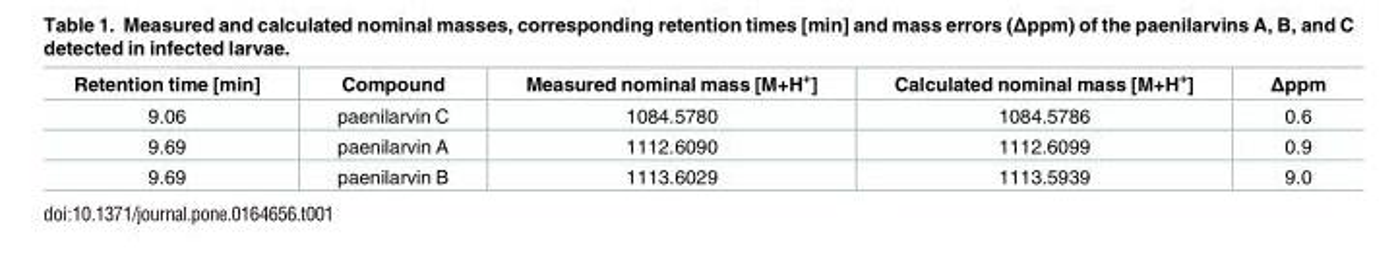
<table><thead><tr><td>Retention time [min]</td><td>Compound</td><td>Measured nominal mass [M+H<sup>+</sup>]</td><td>Calculated nominal mass [M+H<sup>+</sup>]</td><td>Δppm</td></tr></thead><tbody><tr><td>9.06</td><td>paenilarvin C</td><td>1084.5780</td><td>1084.5786</td><td>0.6</td></tr><tr><td>9.69</td><td>paenilarvin A</td><td>1112.6090</td><td>1112.6099</td><td>0.9</td></tr><tr><td>9.69</td><td>paenilarvin B</td><td>1113.6029</td><td>1113.5939</td><td>9.0</td></tr></tbody></table>